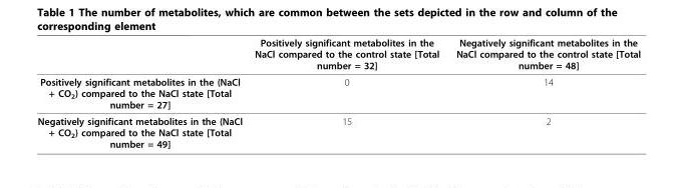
<table><thead><tr><td></td><td>Positively significant metabolites in the NaCl compared to the control state [Total number = 32]</td><td>Negatively significant metabolites in the NaCl compared to the control state [Total number = 48]</td></tr></thead><tbody><tr><td>Positively significant metabolites in the (NaCl + CO<sub>2</sub>) compared to the NaCl state [Total number = 27]</td><td>0</td><td>14</td></tr><tr><td>Negatively significant metabolites in the (NaCl + CO<sub>2</sub>) compared to the NaCl state [Total number = 49]</td><td>15</td><td>2</td></tr></tbody></table>